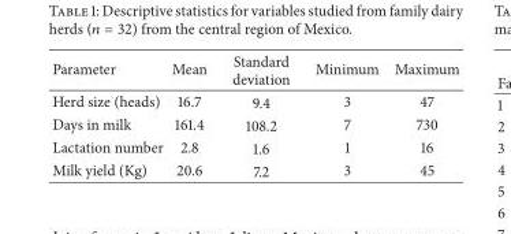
<table><thead><tr><td>Parameter</td><td>Mean</td><td>Standard deviation</td><td>Minimum</td><td>Maximum</td></tr></thead><tbody><tr><td>Herd size (heads)</td><td>16.7</td><td>9.4</td><td>3</td><td>47</td></tr><tr><td>Days in milk</td><td>161.4</td><td>108.2</td><td>7</td><td>730</td></tr><tr><td>Lactation number</td><td>2.8</td><td>1.6</td><td>1</td><td>16</td></tr><tr><td>Milk yield (Kg)</td><td>20.6</td><td>7.2</td><td>3</td><td>45</td></tr></tbody></table>